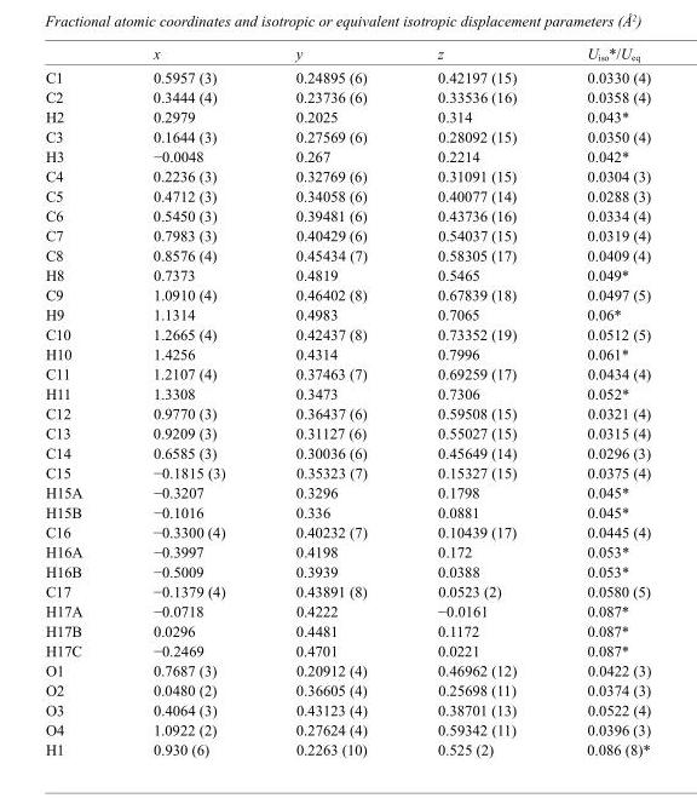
<table><thead><tr><td></td><td>x</td><td>y</td><td>z</td><td>U<sub>iso</sub>*/U<sub>eq</sub></td></tr></thead><tbody><tr><td>C1</td><td>0.5957 (3)</td><td>0.24895 (6)</td><td>0.42197 (15)</td><td>0.0330 (4)</td></tr><tr><td>C2</td><td>0.3444 (4)</td><td>0.23736 (6)</td><td>0.33536 (16)</td><td>0.0358 (4)</td></tr><tr><td>H2</td><td>0.2979</td><td>0.2025</td><td>0.314</td><td>0.043*</td></tr><tr><td>C3</td><td>0.1644 (3)</td><td>0.27569 (6)</td><td>0.28092 (15)</td><td>0.0350 (4)</td></tr><tr><td>H3</td><td>−0.0048</td><td>0.267</td><td>0.2214</td><td>0.042*</td></tr><tr><td>C4</td><td>0.2236 (3)</td><td>0.32769 (6)</td><td>0.31091 (15)</td><td>0.0304 (3)</td></tr><tr><td>C5</td><td>0.4712 (3)</td><td>0.34058 (6)</td><td>0.40077 (14)</td><td>0.0288 (3)</td></tr><tr><td>C6</td><td>0.5450 (3)</td><td>0.39481 (6)</td><td>0.43736 (16)</td><td>0.0334 (4)</td></tr><tr><td>C7</td><td>0.7983 (3)</td><td>0.40429 (6)</td><td>0.54037 (15)</td><td>0.0319 (4)</td></tr><tr><td>C8</td><td>0.8576 (4)</td><td>0.45434 (7)</td><td>0.58305 (17)</td><td>0.0409 (4)</td></tr><tr><td>H8</td><td>0.7373</td><td>0.4819</td><td>0.5465</td><td>0.049*</td></tr><tr><td>C9</td><td>1.0910 (4)</td><td>0.46402 (8)</td><td>0.67839 (18)</td><td>0.0497 (5)</td></tr><tr><td>H9</td><td>1.1314</td><td>0.4983</td><td>0.7065</td><td>0.06*</td></tr><tr><td>C10</td><td>1.2665 (4)</td><td>0.42437 (8)</td><td>0.73352 (19)</td><td>0.0512 (5)</td></tr><tr><td>H10</td><td>1.4256</td><td>0.4314</td><td>0.7996</td><td>0.061*</td></tr><tr><td>C11</td><td>1.2107 (4)</td><td>0.37463 (7)</td><td>0.69259 (17)</td><td>0.0434 (4)</td></tr><tr><td>H11</td><td>1.3308</td><td>0.3473</td><td>0.7306</td><td>0.052*</td></tr><tr><td>C12</td><td>0.9770 (3)</td><td>0.36437 (6)</td><td>0.59508 (15)</td><td>0.0321 (4)</td></tr><tr><td>C13</td><td>0.9209 (3)</td><td>0.31127 (6)</td><td>0.55027 (15)</td><td>0.0315 (4)</td></tr><tr><td>C14</td><td>0.6585 (3)</td><td>0.30036 (6)</td><td>0.45649 (14)</td><td>0.0296 (3)</td></tr><tr><td>C15</td><td>−0.1815 (3)</td><td>0.35323 (7)</td><td>0.15327 (15)</td><td>0.0375 (4)</td></tr><tr><td>H15A</td><td>−0.3207</td><td>0.3296</td><td>0.1798</td><td>0.045*</td></tr><tr><td>H15B</td><td>−0.1016</td><td>0.336</td><td>0.0881</td><td>0.045*</td></tr><tr><td>C16</td><td>−0.3300 (4)</td><td>0.40232 (7)</td><td>0.10439 (17)</td><td>0.0445 (4)</td></tr><tr><td>H16A</td><td>−0.3997</td><td>0.4198</td><td>0.172</td><td>0.053*</td></tr><tr><td>H16B</td><td>−0.5009</td><td>0.3939</td><td>0.0388</td><td>0.053*</td></tr><tr><td>C17</td><td>−0.1379 (4)</td><td>0.43891 (8)</td><td>0.0523 (2)</td><td>0.0580 (5)</td></tr><tr><td>H17A</td><td>−0.0718</td><td>0.4222</td><td>−0.0161</td><td>0.087*</td></tr><tr><td>H17B</td><td>0.0296</td><td>0.4481</td><td>0.1172</td><td>0.087*</td></tr><tr><td>H17C</td><td>−0.2469</td><td>0.4701</td><td>0.0221</td><td>0.087*</td></tr><tr><td>O1</td><td>0.7687 (3)</td><td>0.20912 (4)</td><td>0.46962 (12)</td><td>0.0422 (3)</td></tr><tr><td>O2</td><td>0.0480 (2)</td><td>0.36605 (4)</td><td>0.25698 (11)</td><td>0.0374 (3)</td></tr><tr><td>O3</td><td>0.4064 (3)</td><td>0.43123 (4)</td><td>0.38701 (13)</td><td>0.0522 (4)</td></tr><tr><td>O4</td><td>1.0922 (2)</td><td>0.27624 (4)</td><td>0.59342 (11)</td><td>0.0396 (3)</td></tr><tr><td>H1</td><td>0.930 (6)</td><td>0.2263 (10)</td><td>0.525 (2)</td><td>0.086 (8)*</td></tr></tbody></table>